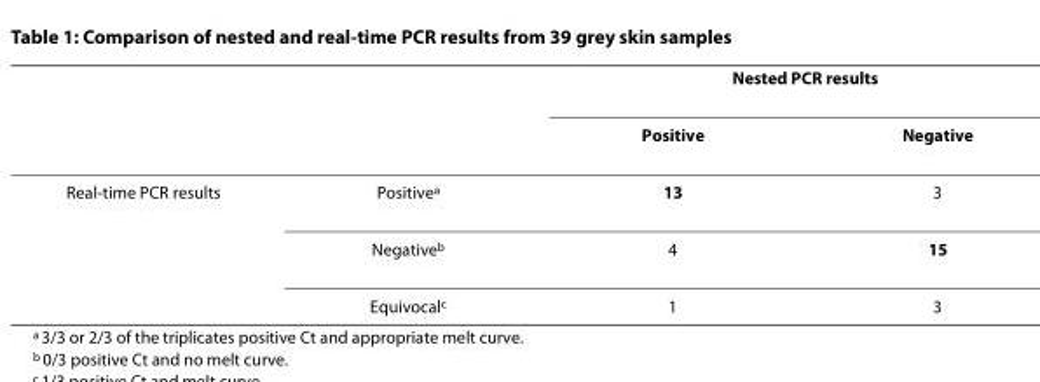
<table><thead><tr><td rowspan="2"></td><td rowspan="2"></td><td colspan="2">Nested PCR results</td></tr><tr><td>Positive</td><td>Negative</td></tr></thead><tbody><tr><td rowspan="3">Real-time PCR results</td><td>Positive<sup>a</sup></td><td>13</td><td>3</td></tr><tr><td>Negative<sup>b</sup></td><td>4</td><td>15</td></tr><tr><td>Equivocal<sup>c</sup></td><td>1</td><td>3</td></tr></tbody></table>